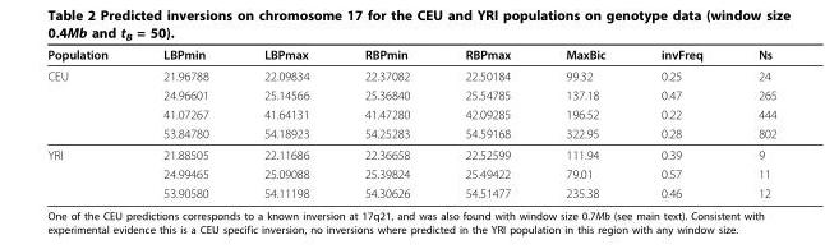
<table><thead><tr><td>Population</td><td>LBPmin</td><td>LBPmax</td><td>RBPmin</td><td>RBPmax</td><td>MaxBic</td><td>invFreq</td><td>Ns</td></tr></thead><tbody><tr><td rowspan="4">CEU</td><td>21.96788</td><td>22.09834</td><td>22.37082</td><td>22.50184</td><td>99.32</td><td>0.25</td><td>24</td></tr><tr><td>24.96601</td><td>25.14566</td><td>25.36840</td><td>25.54785</td><td>137.18</td><td>0.47</td><td>265</td></tr><tr><td>41.07267</td><td>41.64131</td><td>41.47280</td><td>42.09285</td><td>196.52</td><td>0.22</td><td>444</td></tr><tr><td>53.84780</td><td>54.18923</td><td>54.25283</td><td>54.59168</td><td>322.95</td><td>0.28</td><td>802</td></tr><tr><td rowspan="3">YRI</td><td>21.88505</td><td>22.11686</td><td>22.36658</td><td>22.52599</td><td>111.94</td><td>0.39</td><td>9</td></tr><tr><td>24.99465</td><td>25.09088</td><td>25.39824</td><td>25.49422</td><td>79.01</td><td>0.57</td><td>11</td></tr><tr><td>53.90580</td><td>54.11198</td><td>54.30626</td><td>54.51477</td><td>235.38</td><td>0.46</td><td>12</td></tr></tbody></table>